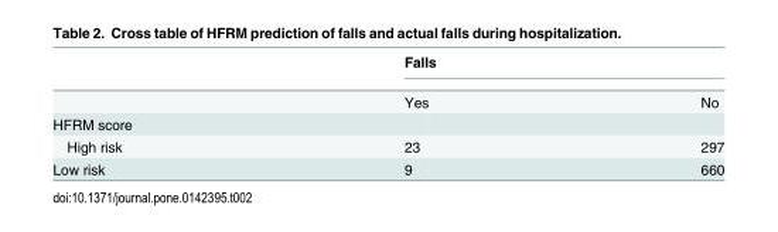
<table><thead><tr><td rowspan="2"></td><td colspan="2">Falls</td></tr><tr><td>Yes</td><td>No</td></tr></thead><tbody><tr><td colspan="3">HFRM score</td></tr><tr><td>High risk</td><td>23</td><td>297</td></tr><tr><td>Low risk</td><td>9</td><td>660</td></tr></tbody></table>